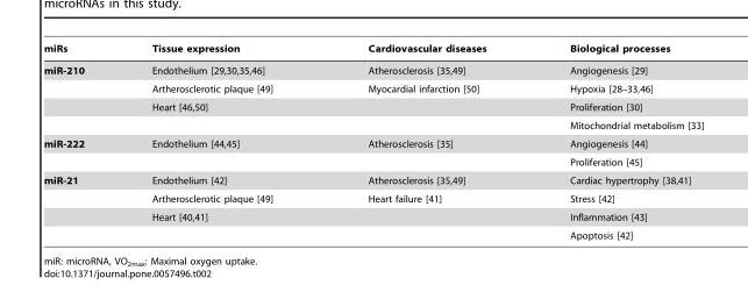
<table><thead><tr><td>miRs</td><td>Tissue expression</td><td>Cardiovascular diseases</td><td>Biological processes</td></tr></thead><tbody><tr><td rowspan="4">miR-210</td><td>Endothelium [29,30,35,46]</td><td>Atherosclerosis [35,49]</td><td>Angiogenesis [29]</td></tr><tr><td>Artherosclerotic plaque [49]</td><td>Myocardial infarction [50]</td><td>Hypoxia [28–33,46]</td></tr><tr><td>Heart [46,50]</td><td></td><td>Proliferation [30]</td></tr><tr><td></td><td></td><td>Mitochondrial metabolism [33]</td></tr><tr><td rowspan="2">miR-222</td><td>Endothelium [44,45]</td><td>Atherosclerosis [35]</td><td>Angiogenesis [44]</td></tr><tr><td></td><td></td><td>Proliferation [45]</td></tr><tr><td rowspan="4">miR-21</td><td>Endothelium [42]</td><td>Atherosclerosis [35,49]</td><td>Cardiac hypertrophy [38,41]</td></tr><tr><td>Artherosclerotic plaque [49]</td><td>Heart failure [41]</td><td>Stress [42]</td></tr><tr><td>Heart [40,41]</td><td></td><td>Inflammation [43]</td></tr><tr><td></td><td></td><td>Apoptosis [42]</td></tr></tbody></table>